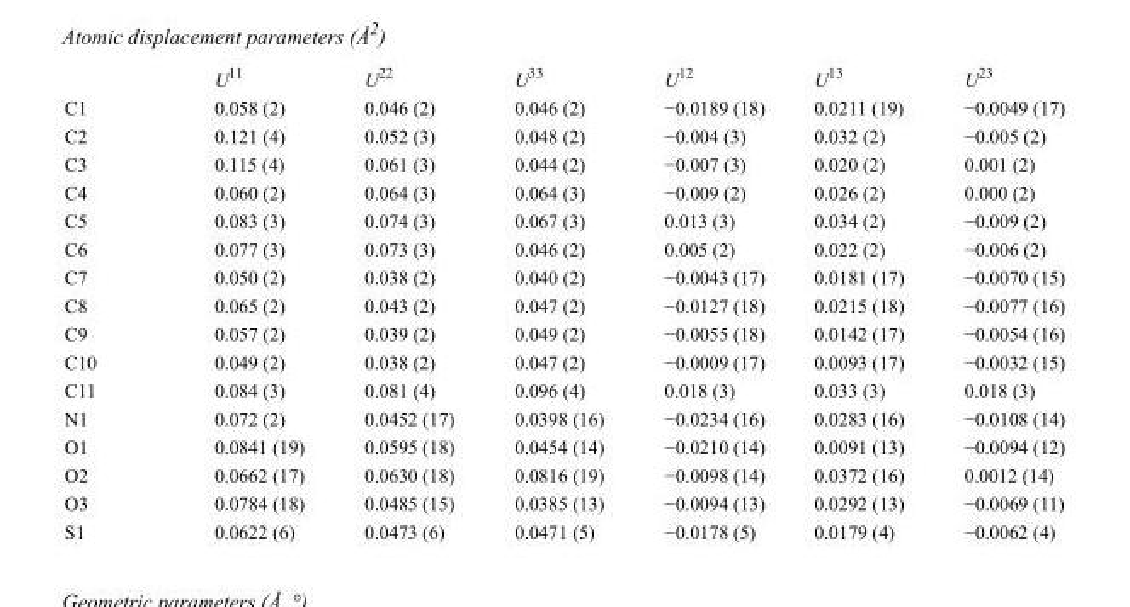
<table><thead><tr><td></td><td>U<sup>11</sup></td><td>U<sup>22</sup></td><td>U<sup>33</sup></td><td>U<sup>12</sup></td><td>U<sup>13</sup></td><td>U<sup>23</sup></td></tr></thead><tbody><tr><td>C1</td><td>0.058 (2)</td><td>0.046 (2)</td><td>0.046 (2)</td><td>−0.0189 (18)</td><td>0.0211 (19)</td><td>−0.0049 (17)</td></tr><tr><td>C2</td><td>0.121 (4)</td><td>0.052 (3)</td><td>0.048 (2)</td><td>−0.004 (3)</td><td>0.032 (2)</td><td>−0.005 (2)</td></tr><tr><td>C3</td><td>0.115 (4)</td><td>0.061 (3)</td><td>0.044 (2)</td><td>−0.007 (3)</td><td>0.020 (2)</td><td>0.001 (2)</td></tr><tr><td>C4</td><td>0.060 (2)</td><td>0.064 (3)</td><td>0.064 (3)</td><td>−0.009 (2)</td><td>0.026 (2)</td><td>0.000 (2)</td></tr><tr><td>C5</td><td>0.083 (3)</td><td>0.074 (3)</td><td>0.067 (3)</td><td>0.013 (3)</td><td>0.034 (2)</td><td>−0.009 (2)</td></tr><tr><td>C6</td><td>0.077 (3)</td><td>0.073 (3)</td><td>0.046 (2)</td><td>0.005 (2)</td><td>0.022 (2)</td><td>−0.006 (2)</td></tr><tr><td>C7</td><td>0.050 (2)</td><td>0.038 (2)</td><td>0.040 (2)</td><td>−0.0043 (17)</td><td>0.0181 (17)</td><td>−0.0070 (15)</td></tr><tr><td>C8</td><td>0.065 (2)</td><td>0.043 (2)</td><td>0.047 (2)</td><td>−0.0127 (18)</td><td>0.0215 (18)</td><td>−0.0077 (16)</td></tr><tr><td>C9</td><td>0.057 (2)</td><td>0.039 (2)</td><td>0.049 (2)</td><td>−0.0055 (18)</td><td>0.0142 (17)</td><td>−0.0054 (16)</td></tr><tr><td>C10</td><td>0.049 (2)</td><td>0.038 (2)</td><td>0.047 (2)</td><td>−0.0009 (17)</td><td>0.0093 (17)</td><td>−0.0032 (15)</td></tr><tr><td>C11</td><td>0.084 (3)</td><td>0.081 (4)</td><td>0.096 (4)</td><td>0.018 (3)</td><td>0.033 (3)</td><td>0.018 (3)</td></tr><tr><td>N1</td><td>0.072 (2)</td><td>0.0452 (17)</td><td>0.0398 (16)</td><td>−0.0234 (16)</td><td>0.0283 (16)</td><td>−0.0108 (14)</td></tr><tr><td>O1</td><td>0.0841 (19)</td><td>0.0595 (18)</td><td>0.0454 (14)</td><td>−0.0210 (14)</td><td>0.0091 (13)</td><td>−0.0094 (12)</td></tr><tr><td>O2</td><td>0.0662 (17)</td><td>0.0630 (18)</td><td>0.0816 (19)</td><td>−0.0098 (14)</td><td>0.0372 (16)</td><td>0.0012 (14)</td></tr><tr><td>O3</td><td>0.0784 (18)</td><td>0.0485 (15)</td><td>0.0385 (13)</td><td>−0.0094 (13)</td><td>0.0292 (13)</td><td>−0.0069 (11)</td></tr><tr><td>S1</td><td>0.0622 (6)</td><td>0.0473 (6)</td><td>0.0471 (5)</td><td>−0.0178 (5)</td><td>0.0179 (4)</td><td>−0.0062 (4)</td></tr></tbody></table>